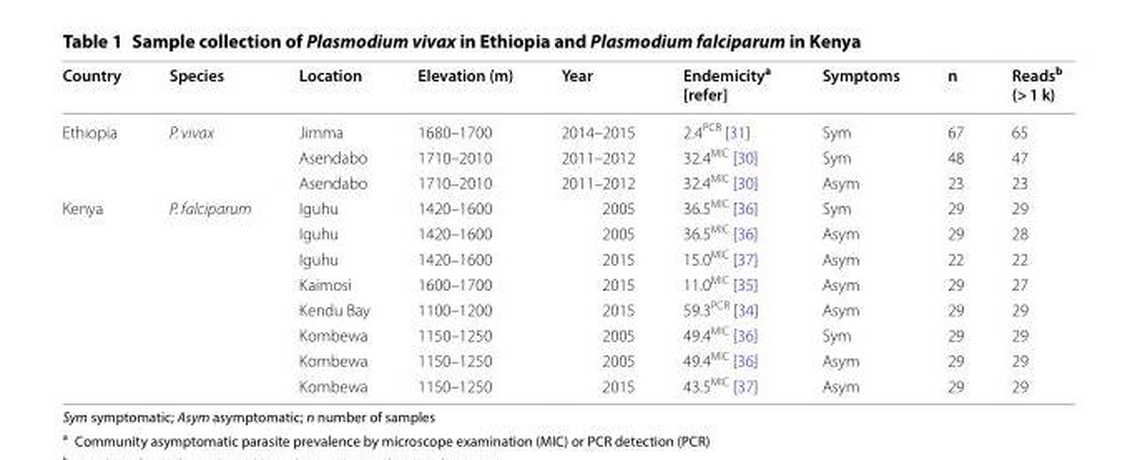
<table><thead><tr><td>Country</td><td>Species</td><td>Location</td><td>Elevation (m)</td><td>Year</td><td>Endemicity<sup>a</sup> [refer]</td><td>Symptoms</td><td>n</td><td>Reads<sup>b</sup> (&gt; 1 k)</td></tr></thead><tbody><tr><td rowspan="3">Ethiopia</td><td>P. vivax</td><td>Jimma</td><td>1680–1700</td><td>2014–2015</td><td>2.4<sup>PCR</sup> [31]</td><td>Sym</td><td>67</td><td>65</td></tr><tr><td></td><td>Asendabo</td><td>1710–2010</td><td>2011–2012</td><td>32.4<sup>MIC</sup> [30]</td><td>Sym</td><td>48</td><td>47</td></tr><tr><td></td><td>Asendabo</td><td>1710–2010</td><td>2011–2012</td><td>32.4<sup>MIC</sup> [30]</td><td>Asym</td><td>23</td><td>23</td></tr><tr><td rowspan="8">Kenya</td><td>P. falciparum</td><td>Iguhu</td><td>1420–1600</td><td>2005</td><td>36.5<sup>MIC</sup> [36]</td><td>Sym</td><td>29</td><td>29</td></tr><tr><td></td><td>Iguhu</td><td>1420–1600</td><td>2005</td><td>36.5<sup>MIC</sup> [36]</td><td>Asym</td><td>29</td><td>28</td></tr><tr><td></td><td>Iguhu</td><td>1420–1600</td><td>2015</td><td>15.0<sup>MIC</sup> [37]</td><td>Asym</td><td>22</td><td>22</td></tr><tr><td></td><td>Kaimosi</td><td>1600–1700</td><td>2015</td><td>11.0<sup>MIC</sup> [35]</td><td>Asym</td><td>29</td><td>27</td></tr><tr><td></td><td>Kendu Bay</td><td>1100–1200</td><td>2015</td><td>59.3<sup>PCR</sup> [34]</td><td>Asym</td><td>29</td><td>29</td></tr><tr><td></td><td>Kombewa</td><td>1150–1250</td><td>2005</td><td>49.4<sup>MIC</sup> [36]</td><td>Sym</td><td>29</td><td>29</td></tr><tr><td></td><td>Kombewa</td><td>1150–1250</td><td>2005</td><td>49.4<sup>MIC</sup> [36]</td><td>Asym</td><td>29</td><td>29</td></tr><tr><td></td><td>Kombewa</td><td>1150–1250</td><td>2015</td><td>43.5<sup>MIC</sup> [37]</td><td>Asym</td><td>29</td><td>29</td></tr></tbody></table>